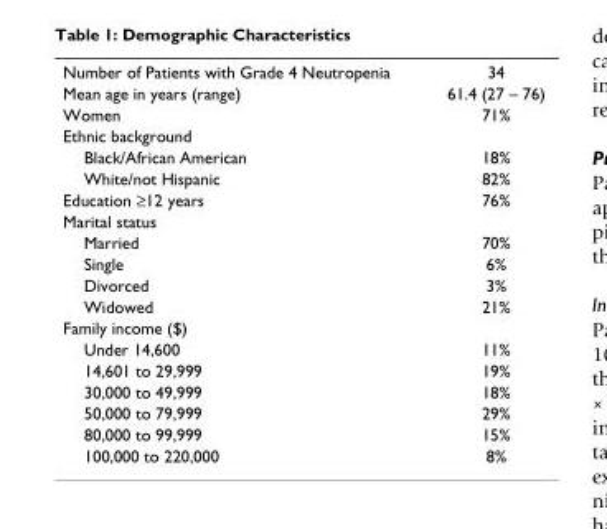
<table><tbody><tr><td>Number of Patients with Grade 4 Neutropenia</td><td>34</td></tr><tr><td>Mean age in years (range)</td><td>61.4 (27 – 76)</td></tr><tr><td>Women</td><td>71%</td></tr><tr><td colspan="2">Ethnic background</td></tr><tr><td>Black/African American</td><td>18%</td></tr><tr><td>White/not Hispanic</td><td>82%</td></tr><tr><td>Education ≥12 years</td><td>76%</td></tr><tr><td colspan="2">Marital status</td></tr><tr><td>Married</td><td>70%</td></tr><tr><td>Single</td><td>6%</td></tr><tr><td>Divorced</td><td>3%</td></tr><tr><td>Widowed</td><td>21%</td></tr><tr><td colspan="2">Family income ($)</td></tr><tr><td>Under 14,600</td><td>11%</td></tr><tr><td>14,601 to 29,999</td><td>19%</td></tr><tr><td>30,000 to 49,999</td><td>18%</td></tr><tr><td>50,000 to 79,999</td><td>29%</td></tr><tr><td>80,000 to 99,999</td><td>15%</td></tr><tr><td>100,000 to 220,000</td><td>8%</td></tr></tbody></table>